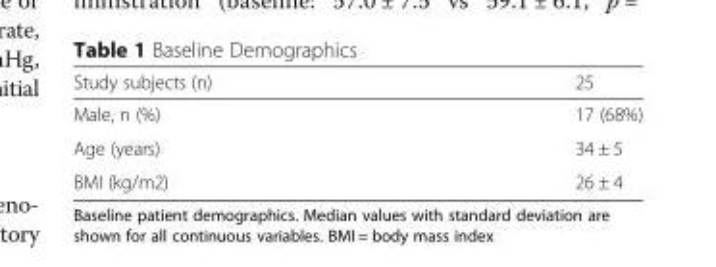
<table><thead><tr><td>Study subjects (n)</td><td>25</td></tr></thead><tbody><tr><td>Male, n (%)</td><td>17 (68%)</td></tr><tr><td>Age (years)</td><td>34 ± 5</td></tr><tr><td>BMI (kg/m2)</td><td>26 ± 4</td></tr></tbody></table>